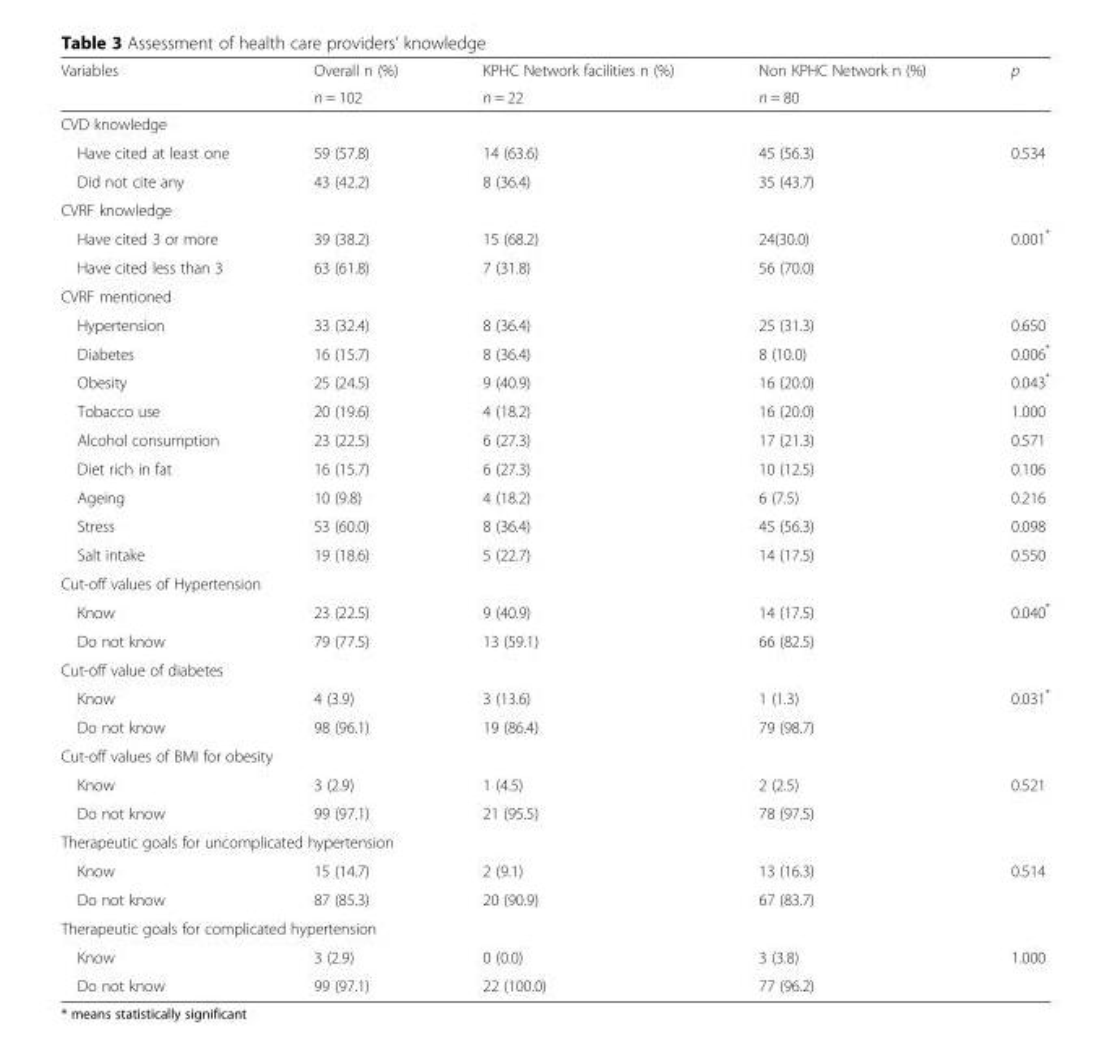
<table><thead><tr><td rowspan="2">Variables</td><td rowspan="2">Overall n (%) n = 102</td><td rowspan="2">KPHC Network facilities n (%) n = 22</td><td rowspan="2">Non KPHC Network n (%) n = 80</td><td rowspan="2">p</td></tr><tr></tr></thead><tbody><tr><td colspan="5">CVD knowledge</td></tr><tr><td>Have cited at least one</td><td>59 (57.8)</td><td>14 (63.6)</td><td>45 (56.3)</td><td>0.534</td></tr><tr><td>Did not cite any</td><td>43 (42.2)</td><td>8 (36.4)</td><td>35 (43.7)</td><td></td></tr><tr><td colspan="5">CVRF knowledge</td></tr><tr><td>Have cited 3 or more</td><td>39 (38.2)</td><td>15 (68.2)</td><td>24(30.0)</td><td>0.001*</td></tr><tr><td>Have cited less than 3</td><td>63 (61.8)</td><td>7 (31.8)</td><td>56 (70.0)</td><td></td></tr><tr><td colspan="5">CVRF mentioned</td></tr><tr><td>Hypertension</td><td>33 (32.4)</td><td>8 (36.4)</td><td>25 (31.3)</td><td>0.650</td></tr><tr><td>Diabetes</td><td>16 (15.7)</td><td>8 (36.4)</td><td>8 (10.0)</td><td>0.006*</td></tr><tr><td>Obesity</td><td>25 (24.5)</td><td>9 (40.9)</td><td>16 (20.0)</td><td>0.043*</td></tr><tr><td>Tobacco use</td><td>20 (19.6)</td><td>4 (18.2)</td><td>16 (20.0)</td><td>1.000</td></tr><tr><td>Alcohol consumption</td><td>23 (22.5)</td><td>6 (27.3)</td><td>17 (21.3)</td><td>0.571</td></tr><tr><td>Diet rich in fat</td><td>16 (15.7)</td><td>6 (27.3)</td><td>10 (12.5)</td><td>0.106</td></tr><tr><td>Ageing</td><td>10 (9.8)</td><td>4 (18.2)</td><td>6 (7.5)</td><td>0.216</td></tr><tr><td>Stress</td><td>53 (60.0)</td><td>8 (36.4)</td><td>45 (56.3)</td><td>0.098</td></tr><tr><td>Salt intake</td><td>19 (18.6)</td><td>5 (22.7)</td><td>14 (17.5)</td><td>0.550</td></tr><tr><td colspan="5">Cut-off values of Hypertension</td></tr><tr><td>Know</td><td>23 (22.5)</td><td>9 (40.9)</td><td>14 (17.5)</td><td>0.040*</td></tr><tr><td>Do not know</td><td>79 (77.5)</td><td>13 (59.1)</td><td>66 (82.5)</td><td></td></tr><tr><td colspan="5">Cut-off value of diabetes</td></tr><tr><td>Know</td><td>4 (3.9)</td><td>3 (13.6)</td><td>1 (1.3)</td><td>0.031*</td></tr><tr><td>Do not know</td><td>98 (96.1)</td><td>19 (86.4)</td><td>79 (98.7)</td><td></td></tr><tr><td colspan="5">Cut-off values of BMI for obesity</td></tr><tr><td>Know</td><td>3 (2.9)</td><td>1 (4.5)</td><td>2 (2.5)</td><td>0.521</td></tr><tr><td>Do not know</td><td>99 (97.1)</td><td>21 (95.5)</td><td>78 (97.5)</td><td></td></tr><tr><td colspan="5">Therapeutic goals for uncomplicated hypertension</td></tr><tr><td>Know</td><td>15 (14.7)</td><td>2 (9.1)</td><td>13 (16.3)</td><td>0.514</td></tr><tr><td>Do not know</td><td>87 (85.3)</td><td>20 (90.9)</td><td>67 (83.7)</td><td></td></tr><tr><td colspan="5">Therapeutic goals for complicated hypertension</td></tr><tr><td>Know</td><td>3 (2.9)</td><td>0 (0.0)</td><td>3 (3.8)</td><td>1.000</td></tr><tr><td>Do not know</td><td>99 (97.1)</td><td>22 (100.0)</td><td>77 (96.2)</td><td></td></tr></tbody></table>